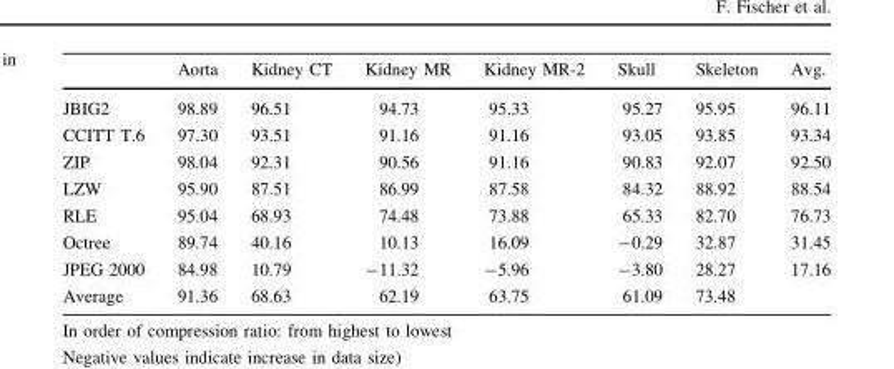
<table><thead><tr><td></td><td>Aorta</td><td>Kidney CT</td><td>Kidney MR</td><td>Kidney MR-2</td><td>Skull</td><td>Skeleton</td><td>Avg.</td></tr></thead><tbody><tr><td>JBIG2</td><td>98.89</td><td>96.51</td><td>94.73</td><td>95.33</td><td>95.27</td><td>95.95</td><td>96.11</td></tr><tr><td>CCITT T.6</td><td>97.30</td><td>93.51</td><td>91.16</td><td>91.16</td><td>93.05</td><td>93.85</td><td>93.34</td></tr><tr><td>ZIP</td><td>98.04</td><td>92.31</td><td>90.56</td><td>91.16</td><td>90.83</td><td>92.07</td><td>92.50</td></tr><tr><td>LZW</td><td>95.90</td><td>87.51</td><td>86.99</td><td>87.58</td><td>84.32</td><td>88.92</td><td>88.54</td></tr><tr><td>RLE</td><td>95.04</td><td>68.93</td><td>74.48</td><td>73.88</td><td>65.33</td><td>82.70</td><td>76.73</td></tr><tr><td>Octree</td><td>89.74</td><td>40.16</td><td>10.13</td><td>16.09</td><td>-0.29</td><td>32.87</td><td>31.45</td></tr><tr><td>JPEG 2000</td><td>84.98</td><td>10.79</td><td>-11.32</td><td>-5.96</td><td>-3.80</td><td>28.27</td><td>17.16</td></tr><tr><td>Average</td><td>91.36</td><td>68.63</td><td>62.19</td><td>63.75</td><td>61.09</td><td>73.48</td><td></td></tr></tbody></table>